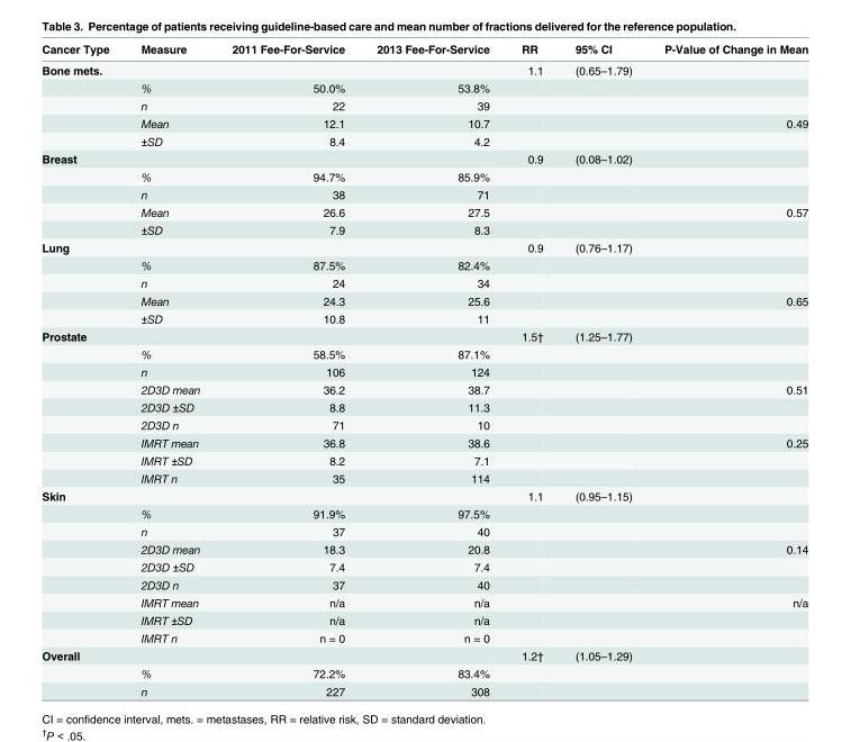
<table><thead><tr><td>Cancer Type</td><td>Measure</td><td>2011 Fee-For-Service</td><td>2013 Fee-For-Service</td><td>RR</td><td>95% CI</td><td>P-Value of Change in Mean</td></tr></thead><tbody><tr><td rowspan="5">Bone mets.</td><td></td><td></td><td></td><td>1.1</td><td>(0.65–1.79)</td><td></td></tr><tr><td>%</td><td>50.0%</td><td>53.8%</td><td></td><td></td><td></td></tr><tr><td>n</td><td>22</td><td>39</td><td></td><td></td><td></td></tr><tr><td>Mean</td><td>12.1</td><td>10.7</td><td></td><td></td><td>0.49</td></tr><tr><td>±SD</td><td>8.4</td><td>4.2</td><td></td><td></td><td></td></tr><tr><td rowspan="5">Breast</td><td></td><td></td><td></td><td>0.9</td><td>(0.08–1.02)</td><td></td></tr><tr><td>%</td><td>94.7%</td><td>85.9%</td><td></td><td></td><td></td></tr><tr><td>n</td><td>38</td><td>71</td><td></td><td></td><td></td></tr><tr><td>Mean</td><td>26.6</td><td>27.5</td><td></td><td></td><td>0.57</td></tr><tr><td>±SD</td><td>7.9</td><td>8.3</td><td></td><td></td><td></td></tr><tr><td rowspan="5">Lung</td><td></td><td></td><td></td><td>0.9</td><td>(0.76–1.17)</td><td></td></tr><tr><td>%</td><td>87.5%</td><td>82.4%</td><td></td><td></td><td></td></tr><tr><td>n</td><td>24</td><td>34</td><td></td><td></td><td></td></tr><tr><td>Mean</td><td>24.3</td><td>25.6</td><td></td><td></td><td>0.65</td></tr><tr><td>±SD</td><td>10.8</td><td>11</td><td></td><td></td><td></td></tr><tr><td rowspan="9">Prostate</td><td></td><td></td><td></td><td>1.5†</td><td>(1.25–1.77)</td><td></td></tr><tr><td>%</td><td>58.5%</td><td>87.1%</td><td></td><td></td><td></td></tr><tr><td>n</td><td>106</td><td>124</td><td></td><td></td><td></td></tr><tr><td>2D3D mean</td><td>36.2</td><td>38.7</td><td></td><td></td><td>0.51</td></tr><tr><td>2D3D ±SD</td><td>8.8</td><td>11.3</td><td></td><td></td><td></td></tr><tr><td>2D3D n</td><td>71</td><td>10</td><td></td><td></td><td></td></tr><tr><td>IMRT mean</td><td>36.8</td><td>38.6</td><td></td><td></td><td>0.25</td></tr><tr><td>IMRT ±SD</td><td>8.2</td><td>7.1</td><td></td><td></td><td></td></tr><tr><td>IMRT n</td><td>35</td><td>114</td><td></td><td></td><td></td></tr><tr><td rowspan="9">Skin</td><td></td><td></td><td></td><td>1.1</td><td>(0.95–1.15)</td><td></td></tr><tr><td>%</td><td>91.9%</td><td>97.5%</td><td></td><td></td><td></td></tr><tr><td>n</td><td>37</td><td>40</td><td></td><td></td><td></td></tr><tr><td>2D3D mean</td><td>18.3</td><td>20.8</td><td></td><td></td><td>0.14</td></tr><tr><td>2D3D ±SD</td><td>7.4</td><td>7.4</td><td></td><td></td><td></td></tr><tr><td>2D3D n</td><td>37</td><td>40</td><td></td><td></td><td></td></tr><tr><td>IMRT mean</td><td>n/a</td><td>n/a</td><td></td><td></td><td>n/a</td></tr><tr><td>IMRT ±SD</td><td>n/a</td><td>n/a</td><td></td><td></td><td></td></tr><tr><td>IMRT n</td><td>n = 0</td><td>n = 0</td><td></td><td></td><td></td></tr><tr><td rowspan="3">Overall</td><td></td><td></td><td></td><td>1.2†</td><td>(1.05–1.29)</td><td></td></tr><tr><td>%</td><td>72.2%</td><td>83.4%</td><td></td><td></td><td></td></tr><tr><td>n</td><td>227</td><td>308</td><td></td><td></td><td></td></tr></tbody></table>